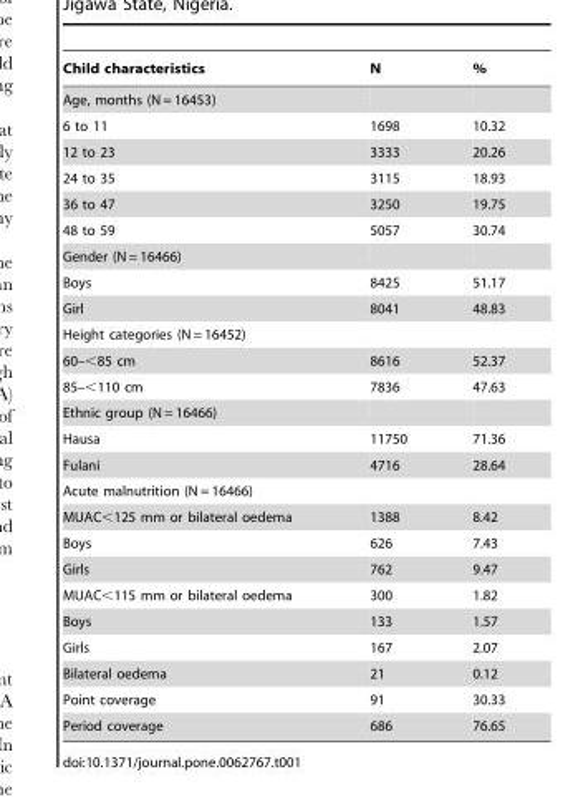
<table><thead><tr><td>Child characteristics</td><td>N</td><td>%</td></tr></thead><tbody><tr><td colspan="3">Age, months (N = 16453)</td></tr><tr><td>6 to 11</td><td>1698</td><td>10.32</td></tr><tr><td>12 to 23</td><td>3333</td><td>20.26</td></tr><tr><td>24 to 35</td><td>3115</td><td>18.93</td></tr><tr><td>36 to 47</td><td>3250</td><td>19.75</td></tr><tr><td>48 to 59</td><td>5057</td><td>30.74</td></tr><tr><td colspan="3">Gender (N = 16466)</td></tr><tr><td>Boys</td><td>8425</td><td>51.17</td></tr><tr><td>Girl</td><td>8041</td><td>48.83</td></tr><tr><td colspan="3">Height categories (N = 16452)</td></tr><tr><td>60–&lt;85 cm</td><td>8616</td><td>52.37</td></tr><tr><td>85–&lt;110 cm</td><td>7836</td><td>47.63</td></tr><tr><td colspan="3">Ethnic group (N = 16466)</td></tr><tr><td>Hausa</td><td>11750</td><td>71.36</td></tr><tr><td>Fulani</td><td>4716</td><td>28.64</td></tr><tr><td colspan="3">Acute malnutrition (N = 16466)</td></tr><tr><td>MUAC&lt;125 mm or bilateral oedema</td><td>1388</td><td>8.42</td></tr><tr><td>Boys</td><td>626</td><td>7.43</td></tr><tr><td>Girls</td><td>762</td><td>9.47</td></tr><tr><td>MUAC&lt;115 mm or bilateral oedema</td><td>300</td><td>1.82</td></tr><tr><td>Boys</td><td>133</td><td>1.57</td></tr><tr><td>Girls</td><td>167</td><td>2.07</td></tr><tr><td>Bilateral oedema</td><td>21</td><td>0.12</td></tr><tr><td>Point coverage</td><td>91</td><td>30.33</td></tr><tr><td>Period coverage</td><td>686</td><td>76.65</td></tr></tbody></table>